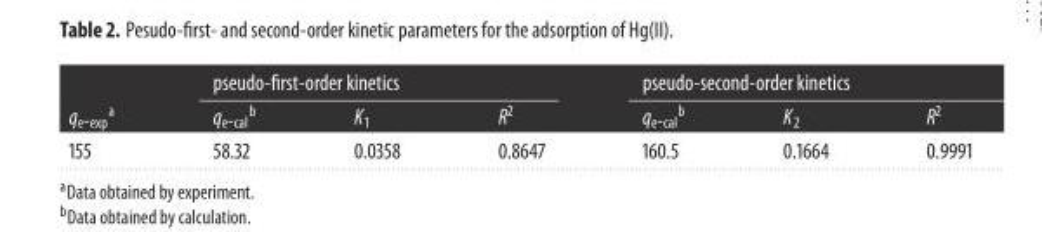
<table><thead><tr><td rowspan="2">q<sub>e-exp</sub><sup>a</sup></td><td colspan="3">pseudo-first-order kinetics</td><td colspan="3">pseudo-second-order kinetics</td></tr><tr><td>q<sub>e-cal</sub><sup>b</sup></td><td>K<sub>1</sub></td><td>R<sup>2</sup></td><td>q<sub>e-cal</sub><sup>b</sup></td><td>K<sub>2</sub></td><td>R<sup>2</sup></td></tr></thead><tbody><tr><td>155</td><td>58.32</td><td>0.0358</td><td>0.8647</td><td>160.5</td><td>0.1664</td><td>0.9991</td></tr></tbody></table>